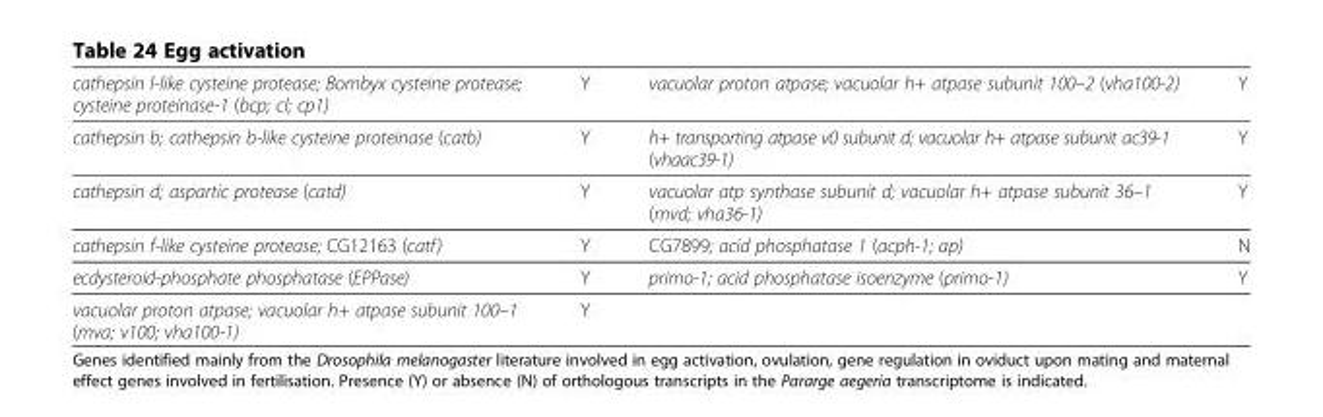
<table><tbody><tr><td>cathepsin l-like cysteine protease; Bombyx cysteine protease; cysteine proteinase-1 (bcp; cl; cp1)</td><td>Y</td><td>vacuolar proton atpase; vacuolar h+ atpase subunit 100–2 (vha100-2)</td><td>Y</td></tr><tr><td>cathepsin b; cathepsin b-like cysteine proteinase (catb)</td><td>Y</td><td>h+ transporting atpase v0 subunit d; vacuolar h+ atpase subunit ac39-1 (vhaac39-1)</td><td>Y</td></tr><tr><td>cathepsin d; aspartic protease (catd)</td><td>Y</td><td>vacuolar atp synthase subunit d; vacuolar h+ atpase subunit 36–1 (mvd; vha36-1)</td><td>Y</td></tr><tr><td>cathepsin f-like cysteine protease; CG12163 (catf)</td><td>Y</td><td>CG7899; acid phosphatase 1 (acph-1; ap)</td><td>N</td></tr><tr><td>ecdysteroid-phosphate phosphatase (EPPase)</td><td>Y</td><td>primo-1; acid phosphatase isoenzyme (primo-1)</td><td>Y</td></tr><tr><td>vacuolar proton atpase; vacuolar h+ atpase subunit 100–1 (mva; v100; vha100-1)</td><td>Y</td><td></td><td></td></tr></tbody></table>